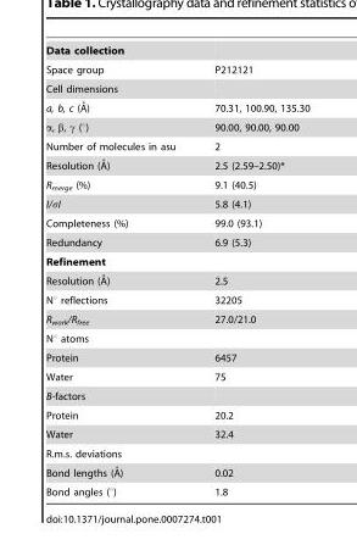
<table><tbody><tr><td colspan="2">Data collection</td></tr><tr><td>Space group</td><td>P212121</td></tr><tr><td colspan="2">Cell dimensions</td></tr><tr><td>a, b, c (A˚)</td><td>70.31, 100.90, 135.30</td></tr><tr><td>α, β, γ (°)</td><td>90.00, 90.00, 90.00</td></tr><tr><td>Number of molecules in asu</td><td>2</td></tr><tr><td>Resolution (A˚)</td><td>2.5 (2.59–2.50)*</td></tr><tr><td>R<sub>merge</sub> (%)</td><td>9.1 (40.5)</td></tr><tr><td>I/σI</td><td>5.8 (4.1)</td></tr><tr><td>Completeness (%)</td><td>99.0 (93.1)</td></tr><tr><td>Redundancy</td><td>6.9 (5.3)</td></tr><tr><td colspan="2">Refinement</td></tr><tr><td>Resolution (A˚)</td><td>2.5</td></tr><tr><td>N° reflections</td><td>32205</td></tr><tr><td>R<sub>work</sub>/R<sub>free</sub></td><td>27.0/21.0</td></tr><tr><td colspan="2">N° atoms</td></tr><tr><td>Protein</td><td>6457</td></tr><tr><td>Water</td><td>75</td></tr><tr><td colspan="2">B-factors</td></tr><tr><td>Protein</td><td>20.2</td></tr><tr><td>Water</td><td>32.4</td></tr><tr><td colspan="2">R.m.s. deviations</td></tr><tr><td>Bond lengths (A˚)</td><td>0.02</td></tr><tr><td>Bond angles (°)</td><td>1.8</td></tr></tbody></table>